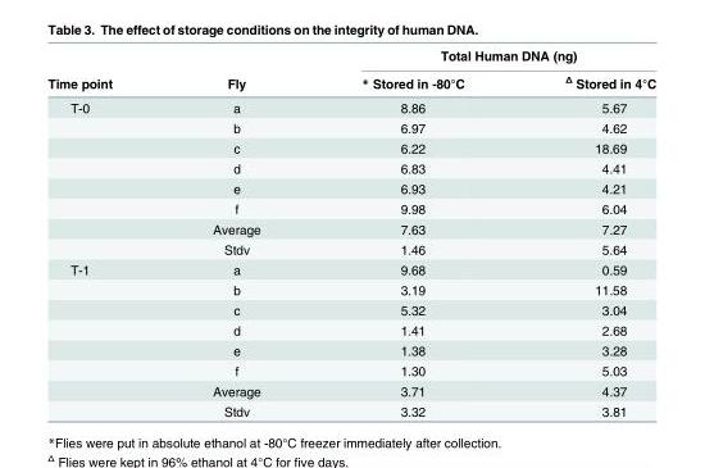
<table><thead><tr><td rowspan="2">Time point</td><td rowspan="2">Fly</td><td colspan="2">Total Human DNA (ng)</td></tr><tr><td>* Stored in -80°C</td><td><sup>Δ</sup> Stored in 4°C</td></tr></thead><tbody><tr><td rowspan="8">T-0</td><td>a</td><td>8.86</td><td>5.67</td></tr><tr><td>b</td><td>6.97</td><td>4.62</td></tr><tr><td>c</td><td>6.22</td><td>18.69</td></tr><tr><td>d</td><td>6.83</td><td>4.41</td></tr><tr><td>e</td><td>6.93</td><td>4.21</td></tr><tr><td>f</td><td>9.98</td><td>6.04</td></tr><tr><td>Average</td><td>7.63</td><td>7.27</td></tr><tr><td>Stdv</td><td>1.46</td><td>5.64</td></tr><tr><td rowspan="8">T-1</td><td>a</td><td>9.68</td><td>0.59</td></tr><tr><td>b</td><td>3.19</td><td>11.58</td></tr><tr><td>c</td><td>5.32</td><td>3.04</td></tr><tr><td>d</td><td>1.41</td><td>2.68</td></tr><tr><td>e</td><td>1.38</td><td>3.28</td></tr><tr><td>f</td><td>1.30</td><td>5.03</td></tr><tr><td>Average</td><td>3.71</td><td>4.37</td></tr><tr><td>Stdv</td><td>3.32</td><td>3.81</td></tr></tbody></table>